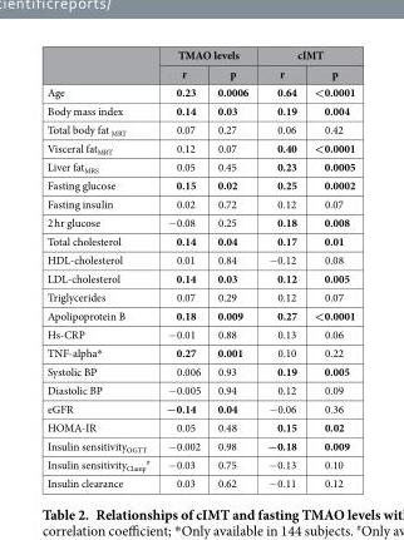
<table><thead><tr><td rowspan="2"></td><td colspan="2">TMAO levels</td><td colspan="2">cIMT</td></tr><tr><td>r</td><td>p</td><td>r</td><td>p</td></tr></thead><tbody><tr><td>Age</td><td>0.23</td><td>0.0006</td><td>0.64</td><td>&lt;0.0001</td></tr><tr><td>Body mass index</td><td>0.14</td><td>0.03</td><td>0.19</td><td>0.004</td></tr><tr><td>Total body fat <sub>MRT</sub></td><td>0.07</td><td>0.27</td><td>0.06</td><td>0.42</td></tr><tr><td>Visceral fat<sub>MRT</sub></td><td>0.12</td><td>0.07</td><td>0.40</td><td>&lt;0.0001</td></tr><tr><td>Liver fat<sub>MRS</sub></td><td>0.05</td><td>0.45</td><td>0.23</td><td>0.0005</td></tr><tr><td>Fasting glucose</td><td>0.15</td><td>0.02</td><td>0.25</td><td>0.0002</td></tr><tr><td>Fasting insulin</td><td>0.02</td><td>0.72</td><td>0.12</td><td>0.07</td></tr><tr><td>2 hr glucose</td><td>− 0.08</td><td>0.25</td><td>0.18</td><td>0.008</td></tr><tr><td>Total cholesterol</td><td>0.14</td><td>0.04</td><td>0.17</td><td>0.01</td></tr><tr><td>HDL-cholesterol</td><td>0.01</td><td>0.84</td><td>− 0.12</td><td>0.08</td></tr><tr><td>LDL-cholesterol</td><td>0.14</td><td>0.03</td><td>0.12</td><td>0.005</td></tr><tr><td>Triglycerides</td><td>0.07</td><td>0.29</td><td>0.12</td><td>0.07</td></tr><tr><td>Apolipoprotein B</td><td>0.18</td><td>0.009</td><td>0.27</td><td>&lt;0.0001</td></tr><tr><td>Hs-CRP</td><td>− 0.01</td><td>0.88</td><td>0.13</td><td>0.06</td></tr><tr><td>TNF-alpha*</td><td>0.27</td><td>0.001</td><td>0.10</td><td>0.22</td></tr><tr><td>Systolic BP</td><td>0.006</td><td>0.93</td><td>0.19</td><td>0.005</td></tr><tr><td>Diastolic BP</td><td>− 0.005</td><td>0.94</td><td>0.12</td><td>0.09</td></tr><tr><td>eGFR</td><td>−0.14</td><td>0.04</td><td>− 0.06</td><td>0.36</td></tr><tr><td>HOMA-IR</td><td>0.05</td><td>0.48</td><td>0.15</td><td>0.02</td></tr><tr><td>Insulin sensitivity<sub>OGTT</sub></td><td>− 0.002</td><td>0.98</td><td>−0.18</td><td>0.009</td></tr><tr><td>Insulin sensitivity<sub>Clamp</sub> #</td><td>− 0.03</td><td>0.75</td><td>− 0.13</td><td>0.10</td></tr><tr><td>Insulin clearance</td><td>0.03</td><td>0.62</td><td>−0.11</td><td>0.12</td></tr></tbody></table>